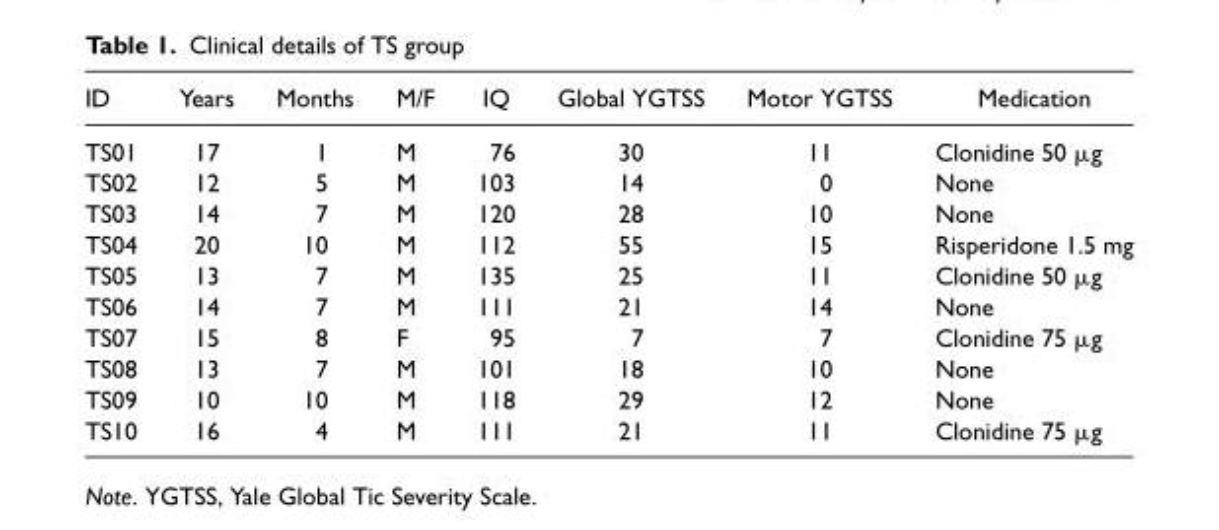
<table><thead><tr><td>ID</td><td>Years</td><td>Months</td><td>M/F</td><td>IQ</td><td>Global YGTSS</td><td>Motor YGTSS</td><td>Medication</td></tr></thead><tbody><tr><td>TS01</td><td>17</td><td>1</td><td>M</td><td>76</td><td>30</td><td>11</td><td>Clonidine 50 μg</td></tr><tr><td>TS02</td><td>12</td><td>5</td><td>M</td><td>103</td><td>14</td><td>0</td><td>None</td></tr><tr><td>TS03</td><td>14</td><td>7</td><td>M</td><td>120</td><td>28</td><td>10</td><td>None</td></tr><tr><td>TS04</td><td>20</td><td>10</td><td>M</td><td>112</td><td>55</td><td>15</td><td>Risperidone 1.5 mg</td></tr><tr><td>TS05</td><td>13</td><td>7</td><td>M</td><td>135</td><td>25</td><td>11</td><td>Clonidine 50 μg</td></tr><tr><td>TS06</td><td>14</td><td>7</td><td>M</td><td>111</td><td>21</td><td>14</td><td>None</td></tr><tr><td>TS07</td><td>15</td><td>8</td><td>F</td><td>95</td><td>7</td><td>7</td><td>Clonidine 75 μg</td></tr><tr><td>TS08</td><td>13</td><td>7</td><td>M</td><td>101</td><td>18</td><td>10</td><td>None</td></tr><tr><td>TS09</td><td>10</td><td>10</td><td>M</td><td>118</td><td>29</td><td>12</td><td>None</td></tr><tr><td>TS10</td><td>16</td><td>4</td><td>M</td><td>111</td><td>21</td><td>11</td><td>Clonidine 75 μg</td></tr></tbody></table>